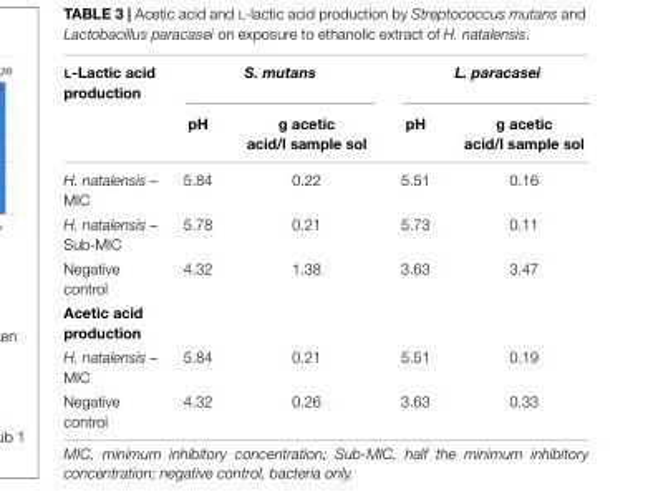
<table><thead><tr><td rowspan="2">L-Lactic acid production</td><td rowspan="2">pH</td><td rowspan="2">S. mutans g acetic acid/l sample sol</td><td rowspan="2">pH</td><td rowspan="2">L. paracasei g acetic acid/l sample sol</td></tr><tr></tr></thead><tbody><tr><td>H. natalensis – MIC</td><td>5.84</td><td>0.22</td><td>5.51</td><td>0.16</td></tr><tr><td>H. natalensis – Sub-MIC</td><td>5.78</td><td>0.21</td><td>5.73</td><td>0.11</td></tr><tr><td>Negative control</td><td>4.32</td><td>1.38</td><td>3.63</td><td>3.47</td></tr><tr><td colspan="5">Acetic acid production</td></tr><tr><td>H. natalensis – MIC</td><td>5.84</td><td>0.21</td><td>5.51</td><td>0.19</td></tr><tr><td>Negative control</td><td>4.32</td><td>0.26</td><td>3.63</td><td>0.33</td></tr></tbody></table>